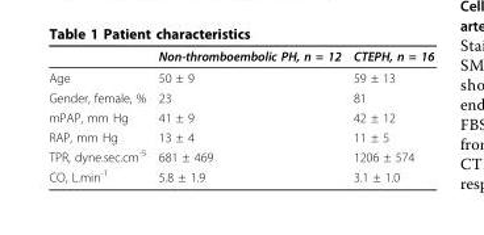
<table><thead><tr><td></td><td>Non-thromboembolic PH, n = 12</td><td>CTEPH, n = 16</td></tr></thead><tbody><tr><td>Age</td><td>50 ± 9</td><td>59 ± 13</td></tr><tr><td>Gender, female, %</td><td>23</td><td>81</td></tr><tr><td>mPAP, mm Hg</td><td>41 ± 9</td><td>42 ± 12</td></tr><tr><td>RAP, mm Hg</td><td>13 ± 4</td><td>11 ± 5</td></tr><tr><td>TPR, dyne.sec.cm<sup>-5</sup></td><td>681 ± 469</td><td>1206 ± 574</td></tr><tr><td>CO, L.min<sup>-1</sup></td><td>5.8 ± 1.9</td><td>3.1 ± 1.0</td></tr></tbody></table>